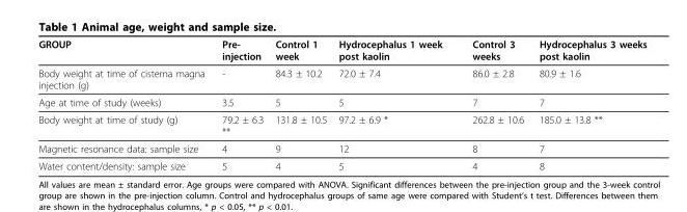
<table><thead><tr><td>GROUP</td><td>Pre- injection</td><td>Control 1 week</td><td>Hydrocephalus 1 week post kaolin</td><td>Control 3 weeks</td><td>Hydrocephalus 3 weeks post kaolin</td></tr></thead><tbody><tr><td>Body weight at time of cisterna magna injection (g)</td><td>-</td><td>84.3 ± 10.2</td><td>72.0 ± 7.4</td><td>86.0 ± 2.8</td><td>80.9 ± 1.6</td></tr><tr><td>Age at time of study (weeks)</td><td>3.5</td><td>5</td><td>5</td><td>7</td><td>7</td></tr><tr><td>Body weight at time of study (g)</td><td>79.2 ± 6.3 **</td><td>131.8 ± 10.5</td><td>97.2 ± 6.9 *</td><td>262.8 ± 10.6</td><td>185.0 ± 13.8 **</td></tr><tr><td>Magnetic resonance data: sample size</td><td>4</td><td>9</td><td>12</td><td>8</td><td>7</td></tr><tr><td>Water content/density: sample size</td><td>5</td><td>4</td><td>5</td><td>4</td><td>8</td></tr></tbody></table>